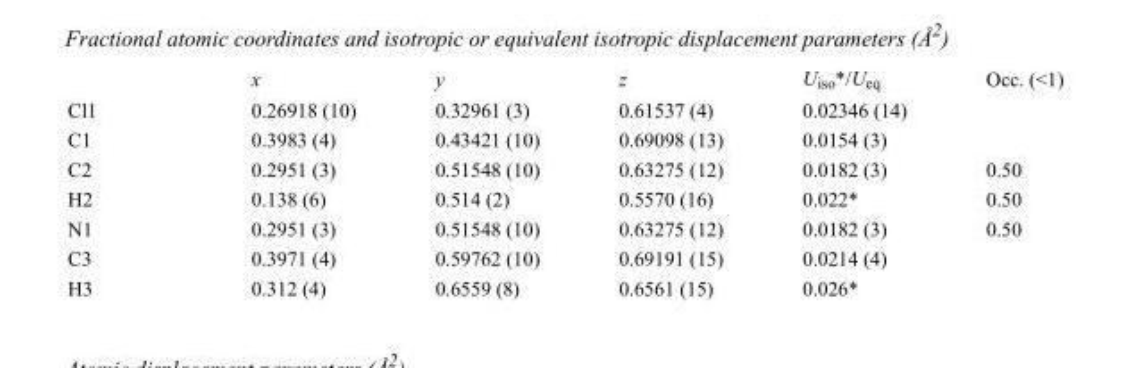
<table><thead><tr><td></td><td>x</td><td>y</td><td>z</td><td>U<sub>iso</sub>*/U<sub>eq</sub></td><td>Occ. (&lt;1)</td></tr></thead><tbody><tr><td>Cl1</td><td>0.26918 (10)</td><td>0.32961 (3)</td><td>0.61537 (4)</td><td>0.02346 (14)</td><td></td></tr><tr><td>C1</td><td>0.3983 (4)</td><td>0.43421 (10)</td><td>0.69098 (13)</td><td>0.0154 (3)</td><td></td></tr><tr><td>C2</td><td>0.2951 (3)</td><td>0.51548 (10)</td><td>0.63275 (12)</td><td>0.0182 (3)</td><td>0.50</td></tr><tr><td>H2</td><td>0.138 (6)</td><td>0.514 (2)</td><td>0.5570 (16)</td><td>0.022*</td><td>0.50</td></tr><tr><td>N1</td><td>0.2951 (3)</td><td>0.51548 (10)</td><td>0.63275 (12)</td><td>0.0182 (3)</td><td>0.50</td></tr><tr><td>C3</td><td>0.3971 (4)</td><td>0.59762 (10)</td><td>0.69191 (15)</td><td>0.0214 (4)</td><td></td></tr><tr><td>H3</td><td>0.312 (4)</td><td>0.6559 (8)</td><td>0.6561 (15)</td><td>0.026*</td><td></td></tr></tbody></table>